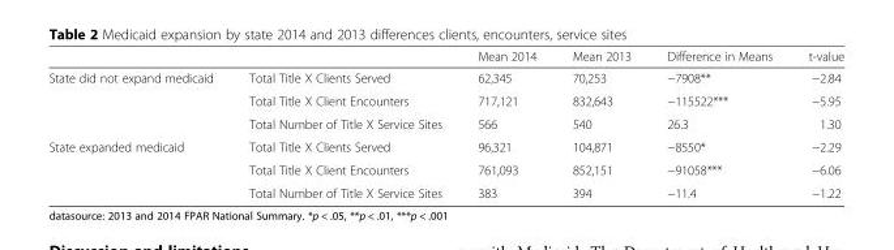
<table><thead><tr><td></td><td></td><td>Mean 2014</td><td>Mean 2013</td><td>Difference in Means</td><td>t-value</td></tr></thead><tbody><tr><td rowspan="3">State did not expand medicaid</td><td>Total Title X Clients Served</td><td>62,345</td><td>70,253</td><td>−7908**</td><td>−2.84</td></tr><tr><td>Total Title X Client Encounters</td><td>717,121</td><td>832,643</td><td>−115522***</td><td>−5.95</td></tr><tr><td>Total Number of Title X Service Sites</td><td>566</td><td>540</td><td>26.3</td><td>1.30</td></tr><tr><td rowspan="3">State expanded medicaid</td><td>Total Title X Clients Served</td><td>96,321</td><td>104,871</td><td>−8550*</td><td>−2.29</td></tr><tr><td>Total Title X Client Encounters</td><td>761,093</td><td>852,151</td><td>−91058***</td><td>−6.06</td></tr><tr><td>Total Number of Title X Service Sites</td><td>383</td><td>394</td><td>−11.4</td><td>−1.22</td></tr></tbody></table>